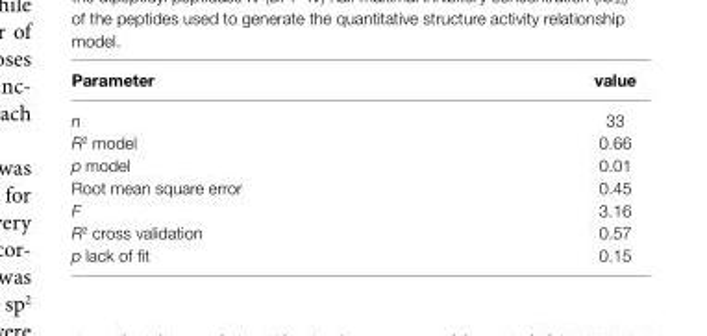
<table><thead><tr><td>Parameter</td><td>value</td></tr></thead><tbody><tr><td>n</td><td>33</td></tr><tr><td>R<sup>2</sup> model</td><td>0.66</td></tr><tr><td>p model</td><td>0.01</td></tr><tr><td>Root mean square error</td><td>0.45</td></tr><tr><td>F</td><td>3.16</td></tr><tr><td>R<sup>2</sup> cross validation</td><td>0.57</td></tr><tr><td>p lack of fit</td><td>0.15</td></tr></tbody></table>